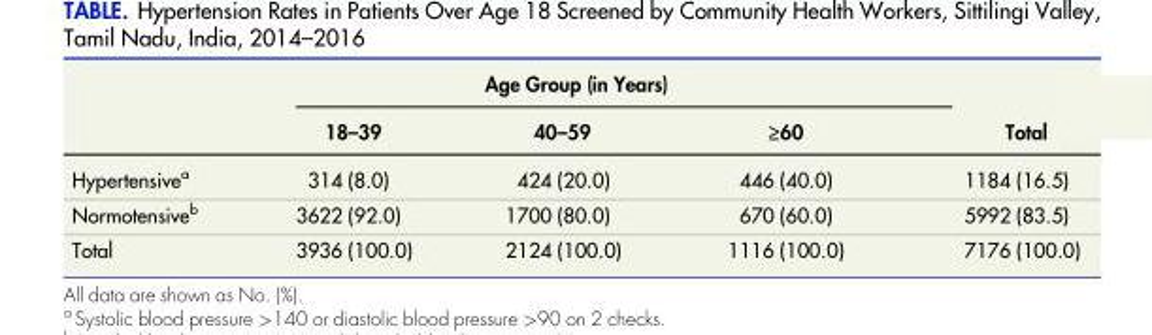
<table><thead><tr><td rowspan="2"></td><td colspan="3">Age Group (in Years)</td><td rowspan="2">Total</td></tr><tr><td>18–39</td><td>40–59</td><td>≥60</td></tr></thead><tbody><tr><td>Hypertensive<sup>a</sup></td><td>314 (8.0)</td><td>424 (20.0)</td><td>446 (40.0)</td><td>1184 (16.5)</td></tr><tr><td>Normotensive<sup>b</sup></td><td>3622 (92.0)</td><td>1700 (80.0)</td><td>670 (60.0)</td><td>5992 (83.5)</td></tr><tr><td>Total</td><td>3936 (100.0)</td><td>2124 (100.0)</td><td>1116 (100.0)</td><td>7176 (100.0)</td></tr></tbody></table>